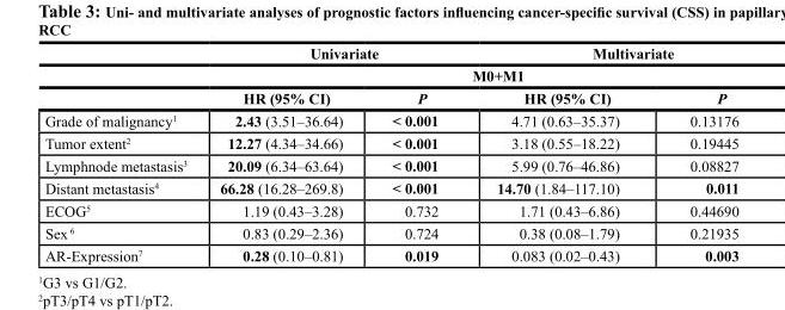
<table><thead><tr><td rowspan="3"></td><td colspan="2">Univariate</td><td colspan="2">Multivariate</td></tr><tr><td colspan="4">M0+M1</td></tr><tr><td>HR (95% CI)</td><td>P</td><td>HR (95% CI)</td><td>P</td></tr></thead><tbody><tr><td>Grade of malignancy<sup>1</sup></td><td>2.43 (3.51–36.64)</td><td>&lt; 0.001</td><td>4.71 (0.63–35.37)</td><td>0.13176</td></tr><tr><td>Tumor extent<sup>2</sup></td><td>12.27 (4.34–34.66)</td><td>&lt; 0.001</td><td>3.18 (0.55–18.22)</td><td>0.19445</td></tr><tr><td>Lymphnode metastasis<sup>3</sup></td><td>20.09 (6.34–63.64)</td><td>&lt; 0.001</td><td>5.99 (0.76–46.86)</td><td>0.08827</td></tr><tr><td>Distant metastasis<sup>4</sup></td><td>66.28 (16.28–269.8)</td><td>&lt; 0.001</td><td>14.70 (1.84–117.10)</td><td>0.011</td></tr><tr><td>ECOG<sup>5</sup></td><td>1.19 (0.43–3.28)</td><td>0.732</td><td>1.71 (0.43–6.86)</td><td>0.44690</td></tr><tr><td>Sex <sup>6</sup></td><td>0.83 (0.29–2.36)</td><td>0.724</td><td>0.38 (0.08–1.79)</td><td>0.21935</td></tr><tr><td>AR-Expression<sup>7</sup></td><td>0.28 (0.10–0.81)</td><td>0.019</td><td>0.083 (0.02–0.43)</td><td>0.003</td></tr></tbody></table>